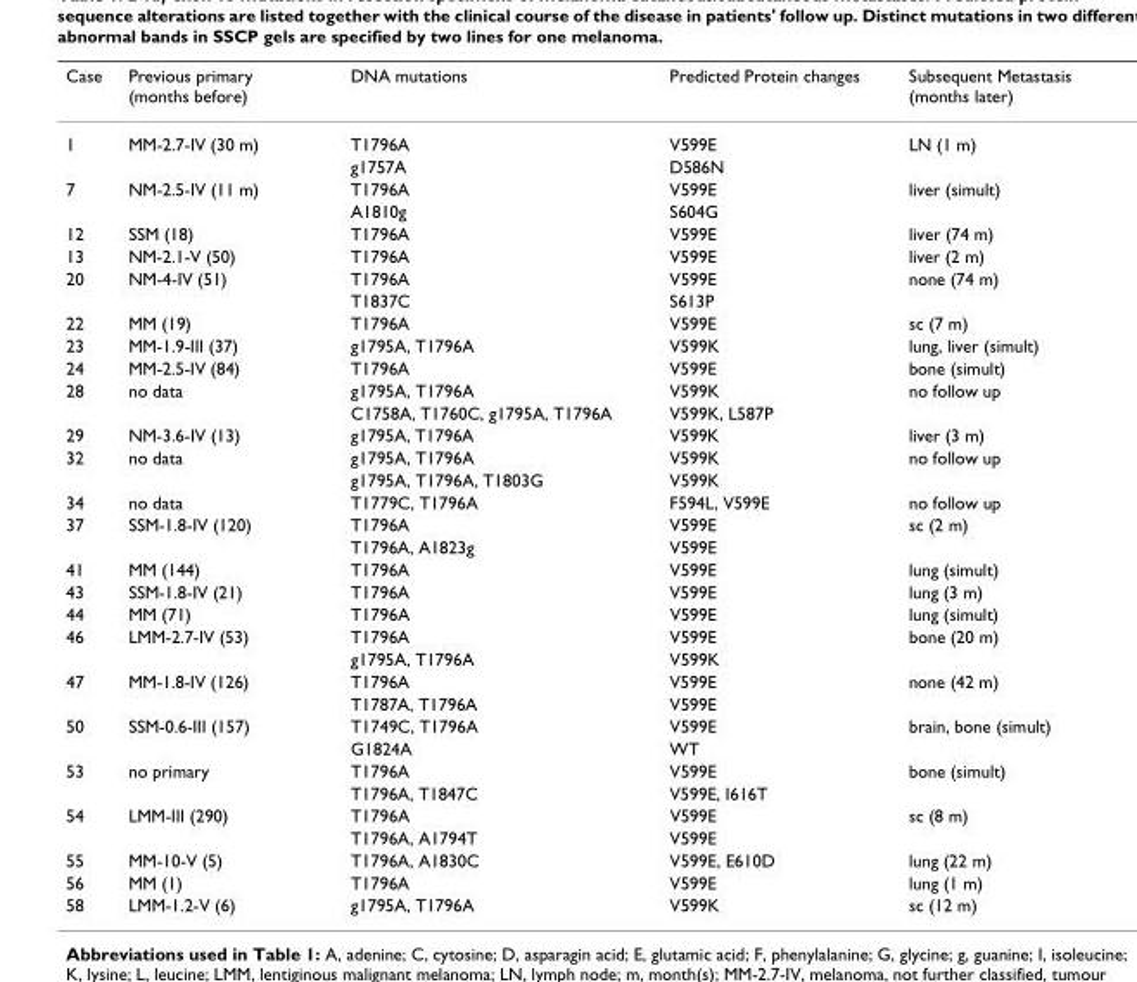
<table><thead><tr><td>Case</td><td>Previous primary (months before)</td><td>DNA mutations</td><td>Predicted Protein changes</td><td>Subsequent Metastasis (months later)</td></tr></thead><tbody><tr><td rowspan="2">1</td><td>MM-2.7-IV (30 m)</td><td>T1796A</td><td>V599E</td><td>LN (1 m)</td></tr><tr><td></td><td>g1757A</td><td>D586N</td><td></td></tr><tr><td rowspan="2">7</td><td>NM-2.5-IV (11 m)</td><td>T1796A</td><td>V599E</td><td>liver (simult)</td></tr><tr><td></td><td>A1810g</td><td>S604G</td><td></td></tr><tr><td>12</td><td>SSM (18)</td><td>T1796A</td><td>V599E</td><td>liver (74 m)</td></tr><tr><td>13</td><td>NM-2.1-V (50)</td><td>T1796A</td><td>V599E</td><td>liver (2 m)</td></tr><tr><td rowspan="2">20</td><td>NM-4-IV (51)</td><td>T1796A</td><td>V599E</td><td>none (74 m)</td></tr><tr><td></td><td>T1837C</td><td>S613P</td><td></td></tr><tr><td>22</td><td>MM (19)</td><td>T1796A</td><td>V599E</td><td>sc (7 m)</td></tr><tr><td>23</td><td>MM-1.9-III (37)</td><td>g1795A, T1796A</td><td>V599K</td><td>lung, liver (simult)</td></tr><tr><td>24</td><td>MM-2.5-IV (84)</td><td>T1796A</td><td>V599E</td><td>bone (simult)</td></tr><tr><td rowspan="2">28</td><td>no data</td><td>g1795A, T1796A</td><td>V599K</td><td>no follow up</td></tr><tr><td></td><td>C1758A, T1760C, g1795A, T1796A</td><td>V599K, L587P</td><td></td></tr><tr><td>29</td><td>NM-3.6-IV (13)</td><td>g1795A, T1796A</td><td>V599K</td><td>liver (3 m)</td></tr><tr><td rowspan="2">32</td><td>no data</td><td>g1795A, T1796A</td><td>V599K</td><td>no follow up</td></tr><tr><td></td><td>g1795A, T1796A, T1803G</td><td>V599K</td><td></td></tr><tr><td>34</td><td>no data</td><td>T1779C, T1796A</td><td>F594L, V599E</td><td>no follow up</td></tr><tr><td rowspan="2">37</td><td>SSM-1.8-IV (120)</td><td>T1796A</td><td>V599E</td><td>sc (2 m)</td></tr><tr><td></td><td>T1796A, A1823g</td><td>V599E</td><td></td></tr><tr><td>41</td><td>MM (144)</td><td>T1796A</td><td>V599E</td><td>lung (simult)</td></tr><tr><td>43</td><td>SSM-1.8-IV (21)</td><td>T1796A</td><td>V599E</td><td>lung (3 m)</td></tr><tr><td>44</td><td>MM (71)</td><td>T1796A</td><td>V599E</td><td>lung (simult)</td></tr><tr><td rowspan="2">46</td><td>LMM-2.7-IV (53)</td><td>T1796A</td><td>V599E</td><td>bone (20 m)</td></tr><tr><td></td><td>g1795A, T1796A</td><td>V599K</td><td></td></tr><tr><td rowspan="2">47</td><td>MM-1.8-IV (126)</td><td>T1796A</td><td>V599E</td><td>none (42 m)</td></tr><tr><td></td><td>T1787A, T1796A</td><td>V599E</td><td></td></tr><tr><td rowspan="2">50</td><td>SSM-0.6-III (157)</td><td>T1749C, T1796A</td><td>V599E</td><td>brain, bone (simult)</td></tr><tr><td></td><td>G1824A</td><td>WT</td><td></td></tr><tr><td rowspan="2">53</td><td>no primary</td><td>T1796A</td><td>V599E</td><td>bone (simult)</td></tr><tr><td></td><td>T1796A, T1847C</td><td>V599E, I616T</td><td></td></tr><tr><td rowspan="2">54</td><td>LMM-III (290)</td><td>T1796A</td><td>V599E</td><td>sc (8 m)</td></tr><tr><td></td><td>T1796A, A1794T</td><td>V599E</td><td></td></tr><tr><td>55</td><td>MM-10-V (5)</td><td>T1796A, A1830C</td><td>V599E, E610D</td><td>lung (22 m)</td></tr><tr><td>56</td><td>MM (1)</td><td>T1796A</td><td>V599E</td><td>lung (1 m)</td></tr><tr><td>58</td><td>LMM-1.2-V (6)</td><td>g1795A, T1796A</td><td>V599K</td><td>sc (12 m)</td></tr></tbody></table>